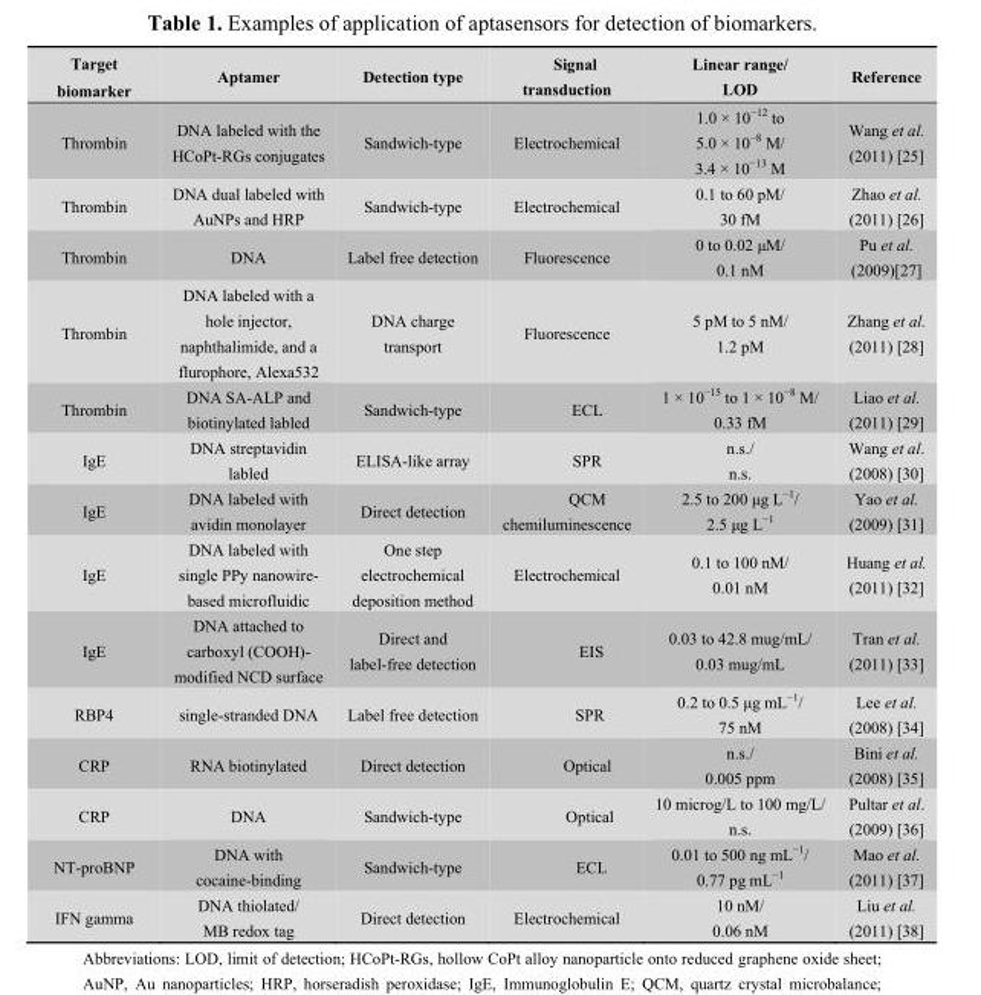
<table><thead><tr><td>Target biomarker</td><td>Aptamer</td><td>Detection type</td><td>Signal transduction</td><td>Linear range/ LOD</td><td>Reference</td></tr></thead><tbody><tr><td>Thrombin</td><td>DNA labeled with the HCoPt-RGs conjugates</td><td>Sandwich-type</td><td>Electrochemical</td><td>1.0 × 10<sup>−12</sup> to 5.0 × 10<sup>−8</sup> M/ 3.4 × 10<sup>−13</sup> M</td><td>Wang et al. (2011) [25]</td></tr><tr><td>Thrombin</td><td>DNA dual labeled with AuNPs and HRP</td><td>Sandwich-type</td><td>Electrochemical</td><td>0.1 to 60 pM/ 30 fM</td><td>Zhao et al. (2011) [26]</td></tr><tr><td>Thrombin</td><td>DNA</td><td>Label free detection</td><td>Fluorescence</td><td>0 to 0.02 μM/ 0.1 nM</td><td>Pu et al. (2009)[27]</td></tr><tr><td>Thrombin</td><td>DNA labeled with a hole injector, naphthalimide, and a flurophore, Alexa532</td><td>DNA charge transport</td><td>Fluorescence</td><td>5 pM to 5 nM/ 1.2 pM</td><td>Zhang et al. (2011) [28]</td></tr><tr><td>Thrombin</td><td>DNA SA-ALP and biotinylated labled</td><td>Sandwich-type</td><td>ECL</td><td>1 × 10<sup>−15</sup> to 1 × 10<sup>−8</sup> M/ 0.33 fM</td><td>Liao et al. (2011) [29]</td></tr><tr><td>IgE</td><td>DNA streptavidin labled</td><td>ELISA-like array</td><td>SPR</td><td>n.s./ n.s.</td><td>Wang et al. (2008) [30]</td></tr><tr><td>IgE</td><td>DNA labeled with avidin monolayer</td><td>Direct detection</td><td>QCM chemiluminescence</td><td>2.5 to 200 μg L<sup>−1</sup>/ 2.5 μg L<sup>−1</sup></td><td>Yao et al. (2009) [31]</td></tr><tr><td>IgE</td><td>DNA labeled with single PPy nanowire- based microfluidic</td><td>One step electrochemical deposition method</td><td>Electrochemical</td><td>0.1 to 100 nM/ 0.01 nM</td><td>Huang et al. (2011) [32]</td></tr><tr><td>IgE</td><td>DNA attached to carboxyl (COOH)- modified NCD surface</td><td>Direct and label-free detection</td><td>EIS</td><td>0.03 to 42.8 mug/mL/ 0.03 mug/mL</td><td>Tran et al. (2011) [33]</td></tr><tr><td>RBP4</td><td>single-stranded DNA</td><td>Label free detection</td><td>SPR</td><td>0.2 to 0.5 μg mL<sup>−1</sup>/ 75 nM</td><td>Lee et al. (2008) [34]</td></tr><tr><td>CRP</td><td>RNA biotinylated</td><td>Direct detection</td><td>Optical</td><td>n.s./ 0.005 ppm</td><td>Bini et al. (2008) [35]</td></tr><tr><td>CRP</td><td>DNA</td><td>Sandwich-type</td><td>Optical</td><td>10 microg/L to 100 mg/L/ n.s.</td><td>Pultar et al. (2009) [36]</td></tr><tr><td>NT-proBNP</td><td>DNA with cocaine-binding</td><td>Sandwich-type</td><td>ECL</td><td>0.01 to 500 ng mL<sup>−1</sup>/ 0.77 pg mL<sup>−1</sup></td><td>Mao et al. (2011) [37]</td></tr><tr><td>IFN gamma</td><td>DNA thiolated/ MB redox tag</td><td>Direct detection</td><td>Electrochemical</td><td>10 nM/ 0.06 nM</td><td>Liu et al. (2011) [38]</td></tr></tbody></table>